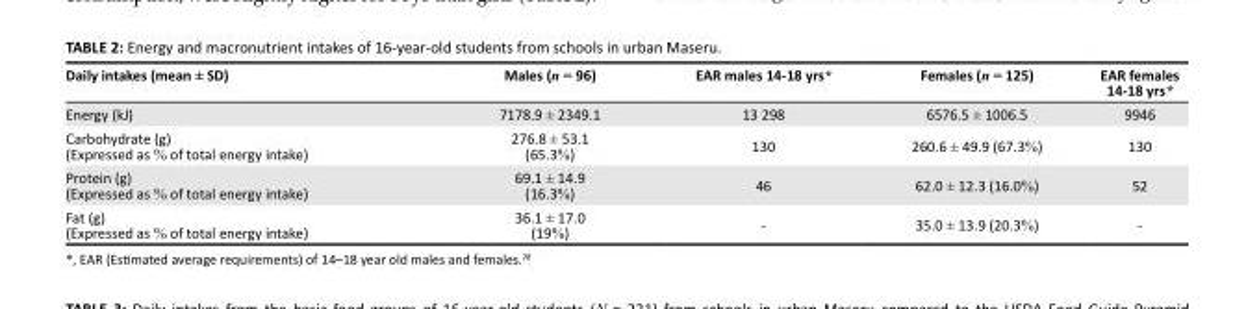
<table><thead><tr><td>Daily intakes (mean ± SD)</td><td>Males (n = 96)</td><td>EAR males 14-18 yrs*</td><td>Females (n = 125)</td><td>EAR females 14-18 yrs*</td></tr></thead><tbody><tr><td>Energy (kJ)</td><td>7178.9 ± 2349.1</td><td>13 298</td><td>6576.5 ± 1006.5</td><td>9946</td></tr><tr><td>Carbohydrate (g) (Expressed as % of total energy intake)</td><td>276.8 ± 53.1 (65.3%)</td><td>130</td><td>260.6 ± 49.9 (67.3%)</td><td>130</td></tr><tr><td>Protein (g) (Expressed as % of total energy intake)</td><td>69.1 ± 14.9 (16.3%)</td><td>46</td><td>62.0 ± 12.3 (16.0%)</td><td>52</td></tr><tr><td>Fat (g) (Expressed as % of total energy intake)</td><td>36.1 ± 17.0 (19%)</td><td>-</td><td>35.0 ± 13.9 (20.3%)</td><td>-</td></tr></tbody></table>